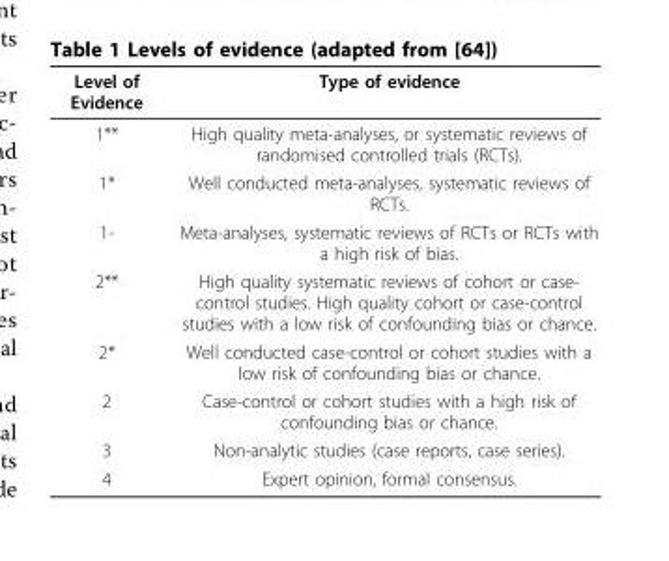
<table><thead><tr><td>Level of Evidence</td><td>Type of evidence</td></tr></thead><tbody><tr><td>1**</td><td>High quality meta-analyses, or systematic reviews of randomised controlled trials (RCTs).</td></tr><tr><td>1*</td><td>Well conducted meta-analyses, systematic reviews of RCTs.</td></tr><tr><td>1-</td><td>Meta-analyses, systematic reviews of RCTs or RCTs with a high risk of bias.</td></tr><tr><td>2**</td><td>High quality systematic reviews of cohort or case- control studies. High quality cohort or case-control studies with a low risk of confounding bias or chance.</td></tr><tr><td>2*</td><td>Well conducted case-control or cohort studies with a low risk of confounding bias or chance.</td></tr><tr><td>2</td><td>Case-control or cohort studies with a high risk of confounding bias or chance.</td></tr><tr><td>3</td><td>Non-analytic studies (case reports, case series).</td></tr><tr><td>4</td><td>Expert opinion, formal consensus.</td></tr></tbody></table>